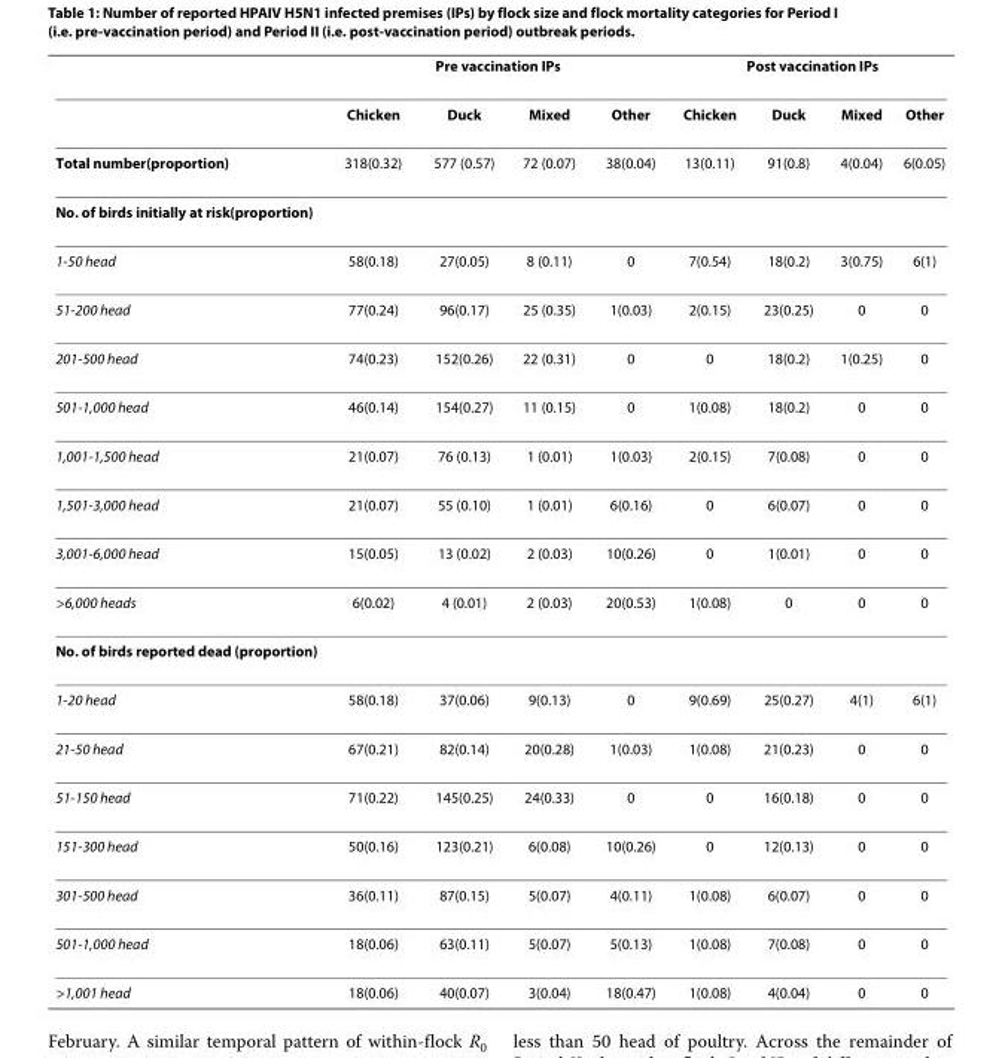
<table><thead><tr><td rowspan="2"></td><td colspan="4">Pre vaccination IPs</td><td colspan="4">Post vaccination IPs</td></tr><tr><td>Chicken</td><td>Duck</td><td>Mixed</td><td>Other</td><td>Chicken</td><td>Duck</td><td>Mixed</td><td>Other</td></tr></thead><tbody><tr><td>Total number(proportion)</td><td>318(0.32)</td><td>577 (0.57)</td><td>72 (0.07)</td><td>38(0.04)</td><td>13(0.11)</td><td>91(0.8)</td><td>4(0.04)</td><td>6(0.05)</td></tr><tr><td colspan="9">No. of birds initially at risk(proportion)</td></tr><tr><td>1-50 head</td><td>58(0.18)</td><td>27(0.05)</td><td>8 (0.11)</td><td>0</td><td>7(0.54)</td><td>18(0.2)</td><td>3(0.75)</td><td>6(1)</td></tr><tr><td>51-200 head</td><td>77(0.24)</td><td>96(0.17)</td><td>25 (0.35)</td><td>1(0.03)</td><td>2(0.15)</td><td>23(0.25)</td><td>0</td><td>0</td></tr><tr><td>201-500 head</td><td>74(0.23)</td><td>152(0.26)</td><td>22 (0.31)</td><td>0</td><td>0</td><td>18(0.2)</td><td>1(0.25)</td><td>0</td></tr><tr><td>501-1,000 head</td><td>46(0.14)</td><td>154(0.27)</td><td>11 (0.15)</td><td>0</td><td>1(0.08)</td><td>18(0.2)</td><td>0</td><td>0</td></tr><tr><td>1,001-1,500 head</td><td>21(0.07)</td><td>76 (0.13)</td><td>1 (0.01)</td><td>1(0.03)</td><td>2(0.15)</td><td>7(0.08)</td><td>0</td><td>0</td></tr><tr><td>1,501-3,000 head</td><td>21(0.07)</td><td>55 (0.10)</td><td>1 (0.01)</td><td>6(0.16)</td><td>0</td><td>6(0.07)</td><td>0</td><td>0</td></tr><tr><td>3,001-6,000 head</td><td>15(0.05)</td><td>13 (0.02)</td><td>2 (0.03)</td><td>10(0.26)</td><td>0</td><td>1(0.01)</td><td>0</td><td>0</td></tr><tr><td>&gt;6,000 heads</td><td>6(0.02)</td><td>4 (0.01)</td><td>2 (0.03)</td><td>20(0.53)</td><td>1(0.08)</td><td>0</td><td>0</td><td>0</td></tr><tr><td colspan="9">No. of birds reported dead (proportion)</td></tr><tr><td>1-20 head</td><td>58(0.18)</td><td>37(0.06)</td><td>9(0.13)</td><td>0</td><td>9(0.69)</td><td>25(0.27)</td><td>4(1)</td><td>6(1)</td></tr><tr><td>21-50 head</td><td>67(0.21)</td><td>82(0.14)</td><td>20(0.28)</td><td>1(0.03)</td><td>1(0.08)</td><td>21(0.23)</td><td>0</td><td>0</td></tr><tr><td>51-150 head</td><td>71(0.22)</td><td>145(0.25)</td><td>24(0.33)</td><td>0</td><td>0</td><td>16(0.18)</td><td>0</td><td>0</td></tr><tr><td>151-300 head</td><td>50(0.16)</td><td>123(0.21)</td><td>6(0.08)</td><td>10(0.26)</td><td>0</td><td>12(0.13)</td><td>0</td><td>0</td></tr><tr><td>301-500 head</td><td>36(0.11)</td><td>87(0.15)</td><td>5(0.07)</td><td>4(0.11)</td><td>1(0.08)</td><td>6(0.07)</td><td>0</td><td>0</td></tr><tr><td>501-1,000 head</td><td>18(0.06)</td><td>63(0.11)</td><td>5(0.07)</td><td>5(0.13)</td><td>1(0.08)</td><td>7(0.08)</td><td>0</td><td>0</td></tr><tr><td>&gt;1,001 head</td><td>18(0.06)</td><td>40(0.07)</td><td>3(0.04)</td><td>18(0.47)</td><td>1(0.08)</td><td>4(0.04)</td><td>0</td><td>0</td></tr></tbody></table>